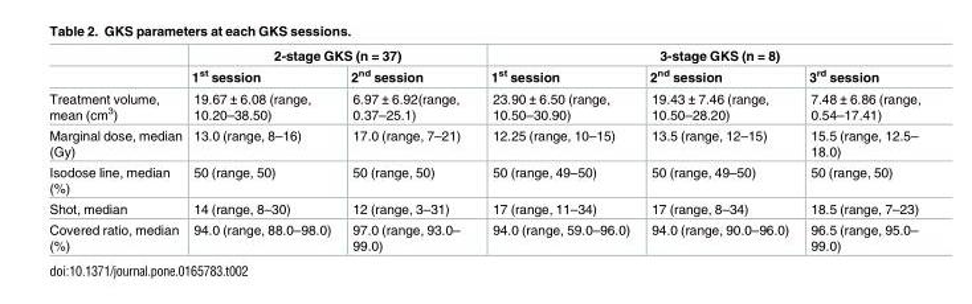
<table><thead><tr><td rowspan="2"></td><td colspan="2">2-stage GKS (n = 37)</td><td colspan="3">3-stage GKS (n = 8)</td></tr><tr><td>1<sup>st</sup> session</td><td>2<sup>nd</sup> session</td><td>1<sup>st</sup> session</td><td>2<sup>nd</sup> session</td><td>3<sup>rd</sup> session</td></tr></thead><tbody><tr><td>Treatment volume, mean (cm<sup>3</sup>)</td><td>19.67 ± 6.08 (range, 10.20–38.50)</td><td>6.97 ± 6.92(range, 0.37–25.1)</td><td>23.90 ± 6.50 (range, 10.50–30.90)</td><td>19.43 ± 7.46 (range, 10.50–28.20)</td><td>7.48 ± 6.86 (range, 0.54–17.41)</td></tr><tr><td>Marginal dose, median (Gy)</td><td>13.0 (range, 8–16)</td><td>17.0 (range, 7–21)</td><td>12.25 (range, 10–15)</td><td>13.5 (range, 12–15)</td><td>15.5 (range, 12.5– 18.0)</td></tr><tr><td>Isodose line, median (%)</td><td>50 (range, 50)</td><td>50 (range, 50)</td><td>50 (range, 49–50)</td><td>50 (range, 49–50)</td><td>50 (range, 50)</td></tr><tr><td>Shot, median</td><td>14 (range, 8–30)</td><td>12 (range, 3–31)</td><td>17 (range, 11–34)</td><td>17 (range, 8–34)</td><td>18.5 (range, 7–23)</td></tr><tr><td>Covered ratio, median (%)</td><td>94.0 (range, 88.0–98.0)</td><td>97.0 (range, 93.0– 99.0)</td><td>94.0 (range, 59.0–96.0)</td><td>94.0 (range, 90.0–96.0)</td><td>96.5 (range, 95.0– 99.0)</td></tr></tbody></table>